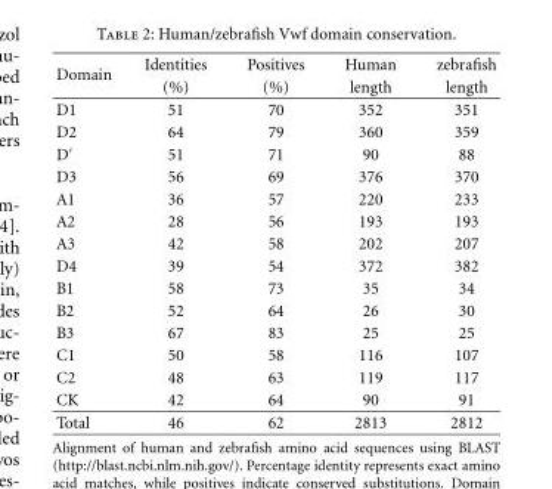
<table><thead><tr><td rowspan="2">Domain</td><td rowspan="2">Identities (%)</td><td rowspan="2">Positives (%)</td><td rowspan="2">Human length</td><td rowspan="2">zebrafish length</td></tr><tr></tr></thead><tbody><tr><td>D1</td><td>51</td><td>70</td><td>352</td><td>351</td></tr><tr><td>D2</td><td>64</td><td>79</td><td>360</td><td>359</td></tr><tr><td>D′</td><td>51</td><td>71</td><td>90</td><td>88</td></tr><tr><td>D3</td><td>56</td><td>69</td><td>376</td><td>370</td></tr><tr><td>A1</td><td>36</td><td>57</td><td>220</td><td>233</td></tr><tr><td>A2</td><td>28</td><td>56</td><td>193</td><td>193</td></tr><tr><td>A3</td><td>42</td><td>58</td><td>202</td><td>207</td></tr><tr><td>D4</td><td>39</td><td>54</td><td>372</td><td>382</td></tr><tr><td>B1</td><td>58</td><td>73</td><td>35</td><td>34</td></tr><tr><td>B2</td><td>52</td><td>64</td><td>26</td><td>30</td></tr><tr><td>B3</td><td>67</td><td>83</td><td>25</td><td>25</td></tr><tr><td>C1</td><td>50</td><td>58</td><td>116</td><td>107</td></tr><tr><td>C2</td><td>48</td><td>63</td><td>119</td><td>117</td></tr><tr><td>CK</td><td>42</td><td>64</td><td>90</td><td>91</td></tr><tr><td>Total</td><td>46</td><td>62</td><td>2813</td><td>2812</td></tr></tbody></table>